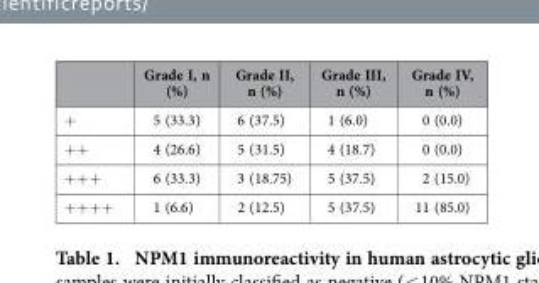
<table><thead><tr><td></td><td>Grade I, n (%)</td><td>Grade II, n (%)</td><td>Grade III, n (%)</td><td>Grade IV, n (%)</td></tr></thead><tbody><tr><td>+</td><td>5 (33.3)</td><td>6 (37.5)</td><td>1 (6.0)</td><td>0 (0.0)</td></tr><tr><td>+ +</td><td>4 (26.6)</td><td>5 (31.5)</td><td>4 (18.7)</td><td>0 (0.0)</td></tr><tr><td>+ + +</td><td>6 (33.3)</td><td>3 (18.75)</td><td>5 (37.5)</td><td>2 (15.0)</td></tr><tr><td>+ + + +</td><td>1 (6.6)</td><td>2 (12.5)</td><td>5 (37.5)</td><td>11 (85.0)</td></tr></tbody></table>